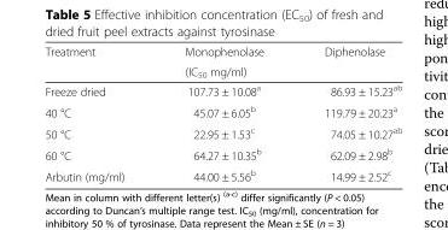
<table><thead><tr><td rowspan="2">Treatment</td><td>Monophenolase</td><td>Diphenolase</td></tr><tr><td colspan="2">(IC<sub>50</sub> mg/ml)</td></tr></thead><tbody><tr><td>Freeze dried</td><td>107.73 ± 10.08<sup>a</sup></td><td>86.93 ± 15.23<sup>ab</sup></td></tr><tr><td>40 °C</td><td>45.07 ± 6.05<sup>b</sup></td><td>119.79 ± 20.23<sup>a</sup></td></tr><tr><td>50 °C</td><td>22.95 ± 1.53<sup>c</sup></td><td>74.05 ± 10.27<sup>ab</sup></td></tr><tr><td>60 °C</td><td>64.27 ± 10.35<sup>b</sup></td><td>62.09 ± 2.98<sup>b</sup></td></tr><tr><td>Arbutin (mg/ml)</td><td>44.00 ± 5.56<sup>b</sup></td><td>14.99 ± 2.52<sup>c</sup></td></tr></tbody></table>